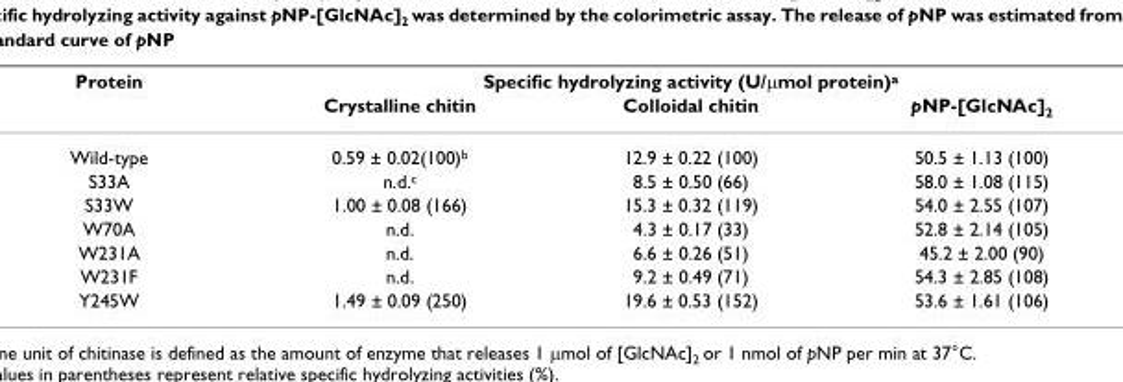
<table><thead><tr><td rowspan="2">Protein</td><td colspan="3">Specific hydrolyzing activity (U/µmol protein)<sup>a</sup></td></tr><tr><td>Crystalline chitin</td><td>Colloidal chitin</td><td>pNP-[GlcNAc]<sub>2</sub></td></tr></thead><tbody><tr><td>Wild-type</td><td>0.59 ± 0.02(100)<sup>b</sup></td><td>12.9 ± 0.22 (100)</td><td>50.5 ± 1.13 (100)</td></tr><tr><td>S33A</td><td>n.d.<sup>c</sup></td><td>8.5 ± 0.50 (66)</td><td>58.0 ± 1.08 (115)</td></tr><tr><td>S33W</td><td>1.00 ± 0.08 (166)</td><td>15.3 ± 0.32 (119)</td><td>54.0 ± 2.55 (107)</td></tr><tr><td>W70A</td><td>n.d.</td><td>4.3 ± 0.17 (33)</td><td>52.8 ± 2.14 (105)</td></tr><tr><td>W231A</td><td>n.d.</td><td>6.6 ± 0.26 (51)</td><td>45.2 ± 2.00 (90)</td></tr><tr><td>W231F</td><td>n.d.</td><td>9.2 ± 0.49 (71)</td><td>54.3 ± 2.85 (108)</td></tr><tr><td>Y245W</td><td>1.49 ± 0.09 (250)</td><td>19.6 ± 0.53 (152)</td><td>53.6 ± 1.61 (106)</td></tr></tbody></table>